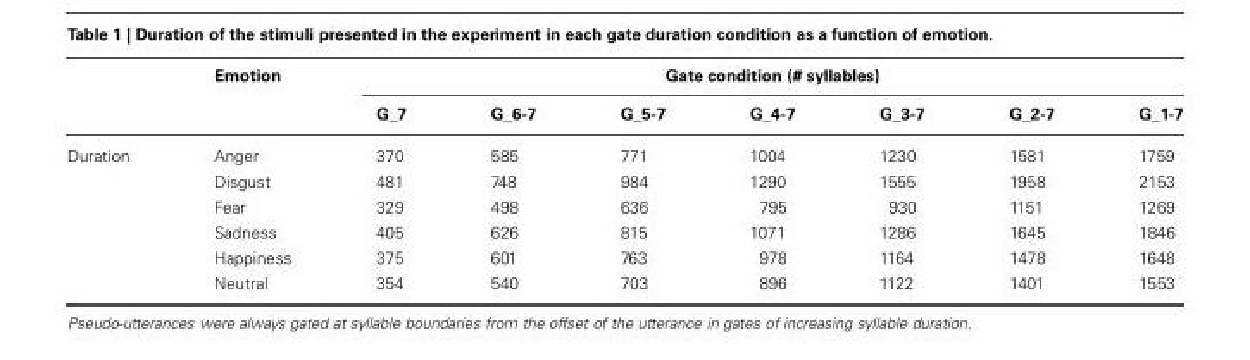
<table><thead><tr><td rowspan="2"></td><td rowspan="2">Emotion</td><td colspan="7">Gate condition (# syllables)</td></tr><tr><td>G_7</td><td>G_6-7</td><td>G_5-7</td><td>G_4-7</td><td>G_3-7</td><td>G_2-7</td><td>G_1-7</td></tr></thead><tbody><tr><td rowspan="6">Duration</td><td>Anger</td><td>370</td><td>585</td><td>771</td><td>1004</td><td>1230</td><td>1581</td><td>1759</td></tr><tr><td>Disgust</td><td>481</td><td>748</td><td>984</td><td>1290</td><td>1555</td><td>1958</td><td>2153</td></tr><tr><td>Fear</td><td>329</td><td>498</td><td>636</td><td>795</td><td>930</td><td>1151</td><td>1269</td></tr><tr><td>Sadness</td><td>405</td><td>626</td><td>815</td><td>1071</td><td>1286</td><td>1645</td><td>1846</td></tr><tr><td>Happiness</td><td>375</td><td>601</td><td>763</td><td>978</td><td>1164</td><td>1478</td><td>1648</td></tr><tr><td>Neutral</td><td>354</td><td>540</td><td>703</td><td>896</td><td>1122</td><td>1401</td><td>1553</td></tr></tbody></table>